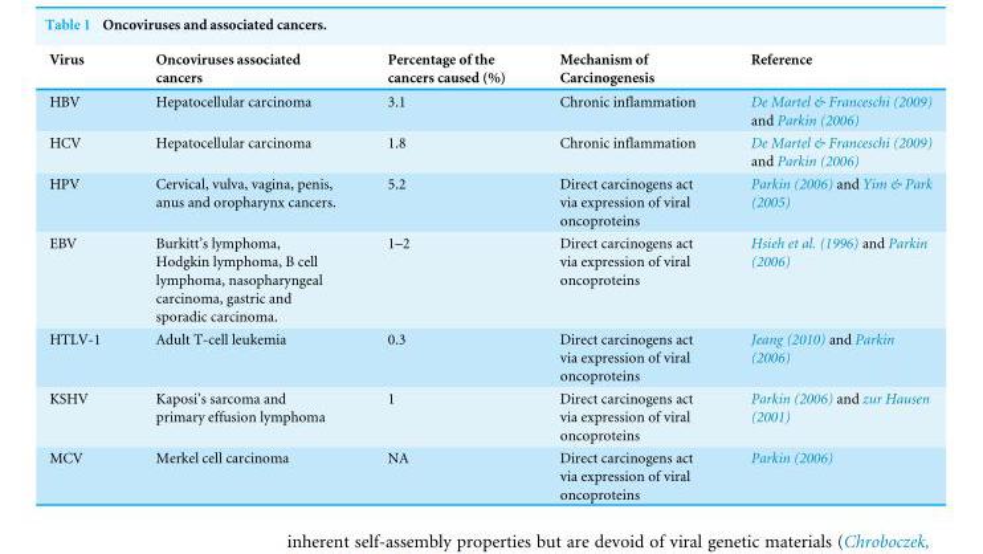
<table><thead><tr><td>Virus</td><td>Oncoviruses associated cancers</td><td>Percentage of the cancers caused (%)</td><td>Mechanism of Carcinogenesis</td><td>Reference</td></tr></thead><tbody><tr><td>HBV</td><td>Hepatocellular carcinoma</td><td>3.1</td><td>Chronic inflammation</td><td>De Martel &amp; Franceschi (2009) and Parkin (2006)</td></tr><tr><td>HCV</td><td>Hepatocellular carcinoma</td><td>1.8</td><td>Chronic inflammation</td><td>De Martel &amp; Franceschi (2009) and Parkin (2006)</td></tr><tr><td>HPV</td><td>Cervical, vulva, vagina, penis, anus and oropharynx cancers.</td><td>5.2</td><td>Direct carcinogens act via expression of viral oncoproteins</td><td>Parkin (2006) and Yim &amp; Park (2005)</td></tr><tr><td>EBV</td><td>Burkitt’s lymphoma, Hodgkin lymphoma, B cell lymphoma, nasopharyngeal carcinoma, gastric and sporadic carcinoma.</td><td>1–2</td><td>Direct carcinogens act via expression of viral oncoproteins</td><td>Hsieh et al. (1996) and Parkin (2006)</td></tr><tr><td>HTLV-1</td><td>Adult T-cell leukemia</td><td>0.3</td><td>Direct carcinogens act via expression of viral oncoproteins</td><td>Jeang (2010) and Parkin (2006)</td></tr><tr><td>KSHV</td><td>Kaposi’s sarcoma and primary effusion lymphoma</td><td>1</td><td>Direct carcinogens act via expression of viral oncoproteins</td><td>Parkin (2006) and zur Hausen (2001)</td></tr><tr><td>MCV</td><td>Merkel cell carcinoma</td><td>NA</td><td>Direct carcinogens act via expression of viral oncoproteins</td><td>Parkin (2006)</td></tr></tbody></table>